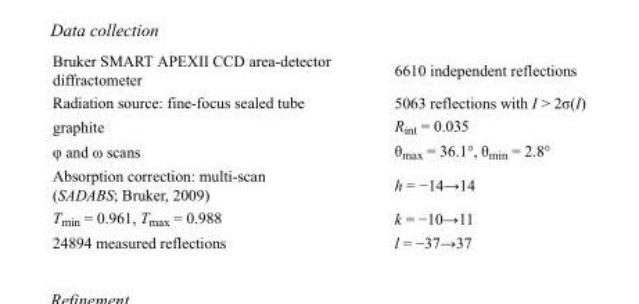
<table><tbody><tr><td>Bruker SMART APEXII CCD area-detector diffractometer</td><td>6610 independent reflections</td></tr><tr><td>Radiation source: fine-focus sealed tube</td><td>5063 reflections with I &gt; 2σ(I)</td></tr><tr><td>graphite</td><td>R<sub>int</sub> = 0.035</td></tr><tr><td>φ and ω scans</td><td>θ<sub>max</sub> = 36.1°, θ<sub>min</sub> = 2.8°</td></tr><tr><td>Absorption correction: multi-scan (SADABS; Bruker, 2009)</td><td>h = −14→14</td></tr><tr><td>T<sub>min</sub> = 0.961, T<sub>max</sub> = 0.988</td><td>k = −10→11</td></tr><tr><td>24894 measured reflections</td><td>l = −37→37</td></tr></tbody></table>